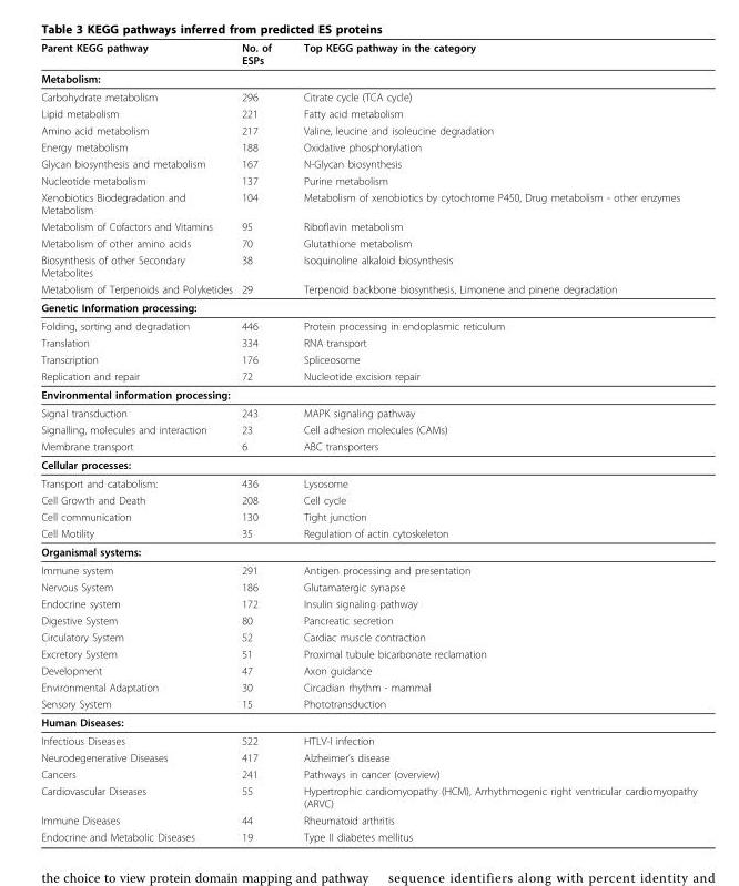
<table><thead><tr><td>Parent KEGG pathway</td><td>No. of ESPs</td><td>Top KEGG pathway in the category</td></tr></thead><tbody><tr><td colspan="3">Metabolism:</td></tr><tr><td>Carbohydrate metabolism</td><td>296</td><td>Citrate cycle (TCA cycle)</td></tr><tr><td>Lipid metabolism</td><td>221</td><td>Fatty acid metabolism</td></tr><tr><td>Amino acid metabolism</td><td>217</td><td>Valine, leucine and isoleucine degradation</td></tr><tr><td>Energy metabolism</td><td>188</td><td>Oxidative phosphorylation</td></tr><tr><td>Glycan biosynthesis and metabolism</td><td>167</td><td>N-Glycan biosynthesis</td></tr><tr><td>Nucleotide metabolism</td><td>137</td><td>Purine metabolism</td></tr><tr><td>Xenobiotics Biodegradation and Metabolism</td><td>104</td><td>Metabolism of xenobiotics by cytochrome P450, Drug metabolism - other enzymes</td></tr><tr><td>Metabolism of Cofactors and Vitamins</td><td>95</td><td>Riboflavin metabolism</td></tr><tr><td>Metabolism of other amino acids</td><td>70</td><td>Glutathione metabolism</td></tr><tr><td>Biosynthesis of other Secondary Metabolites</td><td>38</td><td>Isoquinoline alkaloid biosynthesis</td></tr><tr><td>Metabolism of Terpenoids and Polyketides</td><td>29</td><td>Terpenoid backbone biosynthesis, Limonene and pinene degradation</td></tr><tr><td colspan="3">Genetic Information processing:</td></tr><tr><td>Folding, sorting and degradation</td><td>446</td><td>Protein processing in endoplasmic reticulum</td></tr><tr><td>Translation</td><td>334</td><td>RNA transport</td></tr><tr><td>Transcription</td><td>176</td><td>Spliceosome</td></tr><tr><td>Replication and repair</td><td>72</td><td>Nucleotide excision repair</td></tr><tr><td colspan="3">Environmental information processing:</td></tr><tr><td>Signal transduction</td><td>243</td><td>MAPK signaling pathway</td></tr><tr><td>Signalling, molecules and interaction</td><td>23</td><td>Cell adhesion molecules (CAMs)</td></tr><tr><td>Membrane transport</td><td>6</td><td>ABC transporters</td></tr><tr><td colspan="3">Cellular processes:</td></tr><tr><td>Transport and catabolism:</td><td>436</td><td>Lysosome</td></tr><tr><td>Cell Growth and Death</td><td>208</td><td>Cell cycle</td></tr><tr><td>Cell communication</td><td>130</td><td>Tight junction</td></tr><tr><td>Cell Motility</td><td>35</td><td>Regulation of actin cytoskeleton</td></tr><tr><td colspan="3">Organismal systems:</td></tr><tr><td>Immune system</td><td>291</td><td>Antigen processing and presentation</td></tr><tr><td>Nervous System</td><td>186</td><td>Glutamatergic synapse</td></tr><tr><td>Endocrine system</td><td>172</td><td>Insulin signaling pathway</td></tr><tr><td>Digestive System</td><td>80</td><td>Pancreatic secretion</td></tr><tr><td>Circulatory System</td><td>52</td><td>Cardiac muscle contraction</td></tr><tr><td>Excretory System</td><td>51</td><td>Proximal tubule bicarbonate reclamation</td></tr><tr><td>Development</td><td>47</td><td>Axon guidance</td></tr><tr><td>Environmental Adaptation</td><td>30</td><td>Circadian rhythm - mammal</td></tr><tr><td>Sensory System</td><td>15</td><td>Phototransduction</td></tr><tr><td colspan="3">Human Diseases:</td></tr><tr><td>Infectious Diseases</td><td>522</td><td>HTLV-I infection</td></tr><tr><td>Neurodegenerative Diseases</td><td>417</td><td>Alzheimer’s disease</td></tr><tr><td>Cancers</td><td>241</td><td>Pathways in cancer (overview)</td></tr><tr><td>Cardiovascular Diseases</td><td>55</td><td>Hypertrophic cardiomyopathy (HCM), Arrhythmogenic right ventricular cardiomyopathy (ARVC)</td></tr><tr><td>Immune Diseases</td><td>44</td><td>Rheumatoid arthritis</td></tr><tr><td>Endocrine and Metabolic Diseases</td><td>19</td><td>Type II diabetes mellitus</td></tr></tbody></table>